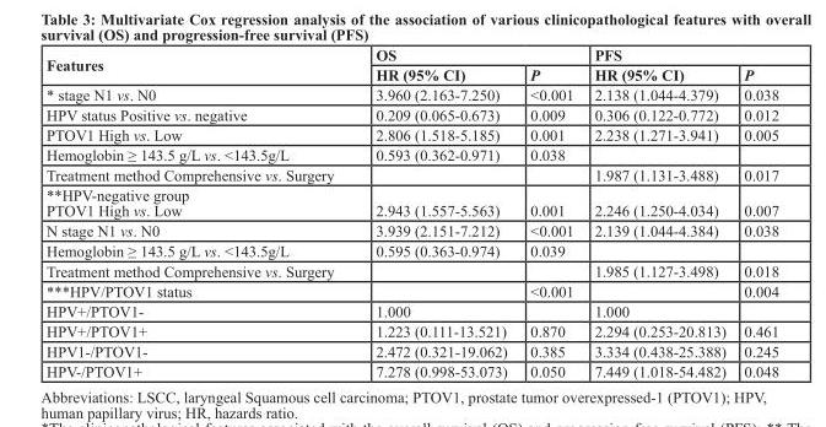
<table><thead><tr><td rowspan="2">Features</td><td colspan="2">OS</td><td colspan="2">PFS</td></tr><tr><td>HR (95% CI)</td><td>P</td><td>HR (95% CI)</td><td>P</td></tr></thead><tbody><tr><td>* stage N1 vs. N0</td><td>3.960 (2.163-7.250)</td><td>&lt;0.001</td><td>2.138 (1.044-4.379)</td><td>0.038</td></tr><tr><td>HPV status Positive vs. negative</td><td>0.209 (0.065-0.673)</td><td>0.009</td><td>0.306 (0.122-0.772)</td><td>0.012</td></tr><tr><td>PTOV1 High vs. Low</td><td>2.806 (1.518-5.185)</td><td>0.001</td><td>2.238 (1.271-3.941)</td><td>0.005</td></tr><tr><td>Hemoglobin ≥ 143.5 g/L vs. &lt;143.5g/L</td><td>0.593 (0.362-0.971)</td><td>0.038</td><td></td><td></td></tr><tr><td>Treatment method Comprehensive vs. Surgery</td><td></td><td></td><td>1.987 (1.131-3.488)</td><td>0.017</td></tr><tr><td>**HPV-negative group PTOV1 High vs. Low</td><td>2.943 (1.557-5.563)</td><td>0.001</td><td>2.246 (1.250-4.034)</td><td>0.007</td></tr><tr><td>N stage N1 vs. N0</td><td>3.939 (2.151-7.212)</td><td>&lt;0.001</td><td>2.139 (1.044-4.384)</td><td>0.038</td></tr><tr><td>Hemoglobin ≥ 143.5 g/L vs. &lt;143.5g/L</td><td>0.595 (0.363-0.974)</td><td>0.039</td><td></td><td></td></tr><tr><td>Treatment method Comprehensive vs. Surgery</td><td></td><td></td><td>1.985 (1.127-3.498)</td><td>0.018</td></tr><tr><td>***HPV/PTOV1 status</td><td></td><td>&lt;0.001</td><td></td><td>0.004</td></tr><tr><td>HPV+/PTOV1-</td><td>1.000</td><td></td><td>1.000</td><td></td></tr><tr><td>HPV+/PTOV1+</td><td>1.223 (0.111-13.521)</td><td>0.870</td><td>2.294 (0.253-20.813)</td><td>0.461</td></tr><tr><td>HPV1-/PTOV1-</td><td>2.472 (0.321-19.062)</td><td>0.385</td><td>3.334 (0.438-25.388)</td><td>0.245</td></tr><tr><td>HPV-/PTOV1+</td><td>7.278 (0.998-53.073)</td><td>0.050</td><td>7.449 (1.018-54.482)</td><td>0.048</td></tr></tbody></table>